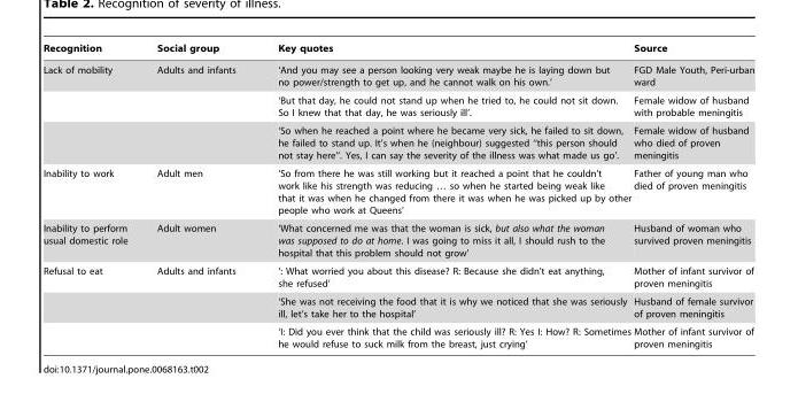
<table><thead><tr><td>Recognition</td><td>Social group</td><td>Key quotes</td><td>Source</td></tr></thead><tbody><tr><td rowspan="3">Lack of mobility</td><td>Adults and infants</td><td>‘And you may see a person looking very weak maybe he is laying down but no power/strength to get up, and he cannot walk on his own.’</td><td>FGD Male Youth, Peri-urban ward</td></tr><tr><td></td><td>‘But that day, he could not stand up when he tried to, he could not sit down. So I knew that that day, he was seriously ill’.</td><td>Female widow of husband with probable meningitis</td></tr><tr><td></td><td>‘So when he reached a point where he became very sick, he failed to sit down, he failed to stand up. It’s when he (neighbour) suggested ‘‘this person should not stay here’’. Yes, I can say the severity of the illness was what made us go’.</td><td>Female widow of husband who died of proven meningitis</td></tr><tr><td>Inability to work</td><td>Adult men</td><td>‘So from there he was still working but it reached a point that he couldn’t work like his strength was reducing … so when he started being weak like that it was when he changed from there it was when he was picked up by other people who work at Queens’</td><td>Father of young man who died of proven meningitis</td></tr><tr><td>Inability to perform usual domestic role</td><td>Adult women</td><td>‘What concerned me was that the woman is sick, but also what the woman was supposed to do at home. I was going to miss it all, I should rush to the hospital that this problem should not grow’</td><td>Husband of woman who survived proven meningitis</td></tr><tr><td rowspan="3">Refusal to eat</td><td>Adults and infants</td><td>‘: What worried you about this disease? R: Because she didn’t eat anything, she refused’</td><td>Mother of infant survivor of proven meningitis</td></tr><tr><td></td><td>‘She was not receiving the food that it is why we noticed that she was seriously ill, let’s take her to the hospital’</td><td>Husband of female survivor of proven meningitis</td></tr><tr><td></td><td>‘I: Did you ever think that the child was seriously ill? R: Yes I: How? R: Sometimes he would refuse to suck milk from the breast, just crying’</td><td>Mother of infant survivor of proven meningitis</td></tr></tbody></table>